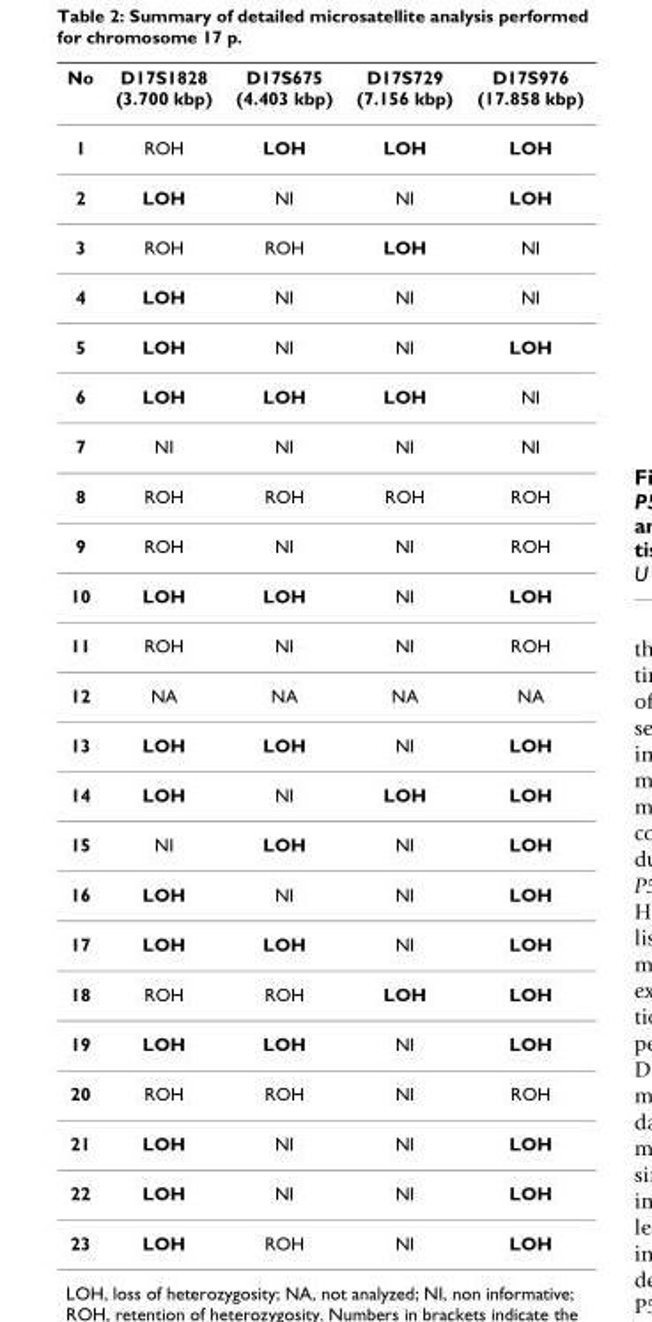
<table><thead><tr><td>No</td><td>D17S1828 (3.700 kbp)</td><td>D17S675 (4.403 kbp)</td><td>D17S729 (7.156 kbp)</td><td>D17S976 (17.858 kbp)</td></tr></thead><tbody><tr><td>1</td><td>ROH</td><td>LOH</td><td>LOH</td><td>LOH</td></tr><tr><td>2</td><td>LOH</td><td>NI</td><td>NI</td><td>LOH</td></tr><tr><td>3</td><td>ROH</td><td>ROH</td><td>LOH</td><td>NI</td></tr><tr><td>4</td><td>LOH</td><td>NI</td><td>NI</td><td>NI</td></tr><tr><td>5</td><td>LOH</td><td>NI</td><td>NI</td><td>LOH</td></tr><tr><td>6</td><td>LOH</td><td>LOH</td><td>LOH</td><td>NI</td></tr><tr><td>7</td><td>NI</td><td>NI</td><td>NI</td><td>NI</td></tr><tr><td>8</td><td>ROH</td><td>ROH</td><td>ROH</td><td>ROH</td></tr><tr><td>9</td><td>ROH</td><td>NI</td><td>NI</td><td>ROH</td></tr><tr><td>10</td><td>LOH</td><td>LOH</td><td>NI</td><td>LOH</td></tr><tr><td>11</td><td>ROH</td><td>NI</td><td>NI</td><td>ROH</td></tr><tr><td>12</td><td>NA</td><td>NA</td><td>NA</td><td>NA</td></tr><tr><td>13</td><td>LOH</td><td>LOH</td><td>NI</td><td>LOH</td></tr><tr><td>14</td><td>LOH</td><td>NI</td><td>LOH</td><td>LOH</td></tr><tr><td>15</td><td>NI</td><td>LOH</td><td>NI</td><td>LOH</td></tr><tr><td>16</td><td>LOH</td><td>NI</td><td>NI</td><td>LOH</td></tr><tr><td>17</td><td>LOH</td><td>LOH</td><td>NI</td><td>LOH</td></tr><tr><td>18</td><td>ROH</td><td>ROH</td><td>LOH</td><td>LOH</td></tr><tr><td>19</td><td>LOH</td><td>LOH</td><td>NI</td><td>LOH</td></tr><tr><td>20</td><td>ROH</td><td>ROH</td><td>NI</td><td>ROH</td></tr><tr><td>21</td><td>LOH</td><td>NI</td><td>NI</td><td>LOH</td></tr><tr><td>22</td><td>LOH</td><td>NI</td><td>NI</td><td>LOH</td></tr><tr><td>23</td><td>LOH</td><td>ROH</td><td>NI</td><td>LOH</td></tr></tbody></table>